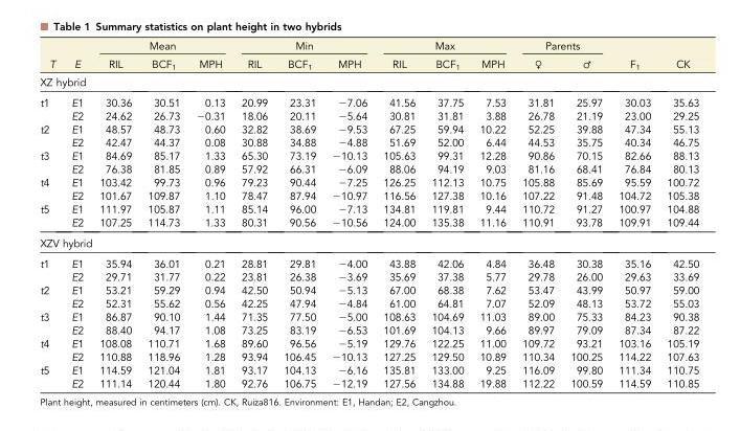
<table><thead><tr><td rowspan="2">T</td><td rowspan="2">E</td><td colspan="3">Mean</td><td colspan="3">Min</td><td colspan="3">Max</td><td colspan="2">Parents</td><td rowspan="2">F<sub>1</sub></td><td rowspan="2">CK</td></tr><tr><td>RIL</td><td>BCF<sub>1</sub></td><td>MPH</td><td>RIL</td><td>BCF<sub>1</sub></td><td>MPH</td><td>RIL</td><td>BCF<sub>1</sub></td><td>MPH</td><td>♀</td><td>♂</td></tr></thead><tbody><tr><td colspan="15">XZ hybrid</td></tr><tr><td rowspan="2">t1</td><td>E1</td><td>30.36</td><td>30.51</td><td>0.13</td><td>20.99</td><td>23.31</td><td>−7.06</td><td>41.56</td><td>37.75</td><td>7.53</td><td>31.81</td><td>25.97</td><td>30.03</td><td>35.63</td></tr><tr><td>E2</td><td>24.62</td><td>26.73</td><td>−0.31</td><td>18.06</td><td>20.11</td><td>−5.64</td><td>30.81</td><td>31.81</td><td>3.88</td><td>26.78</td><td>21.19</td><td>23.00</td><td>29.25</td></tr><tr><td rowspan="2">t2</td><td>E1</td><td>48.57</td><td>48.73</td><td>0.60</td><td>32.82</td><td>38.69</td><td>−9.53</td><td>67.25</td><td>59.94</td><td>10.22</td><td>52.25</td><td>39.88</td><td>47.34</td><td>55.13</td></tr><tr><td>E2</td><td>42.47</td><td>44.37</td><td>0.08</td><td>30.88</td><td>34.88</td><td>−4.88</td><td>51.69</td><td>52.00</td><td>6.44</td><td>44.53</td><td>35.75</td><td>40.34</td><td>46.75</td></tr><tr><td rowspan="2">t3</td><td>E1</td><td>84.69</td><td>85.17</td><td>1.33</td><td>65.30</td><td>73.19</td><td>−10.13</td><td>105.63</td><td>99.31</td><td>12.28</td><td>90.86</td><td>70.15</td><td>82.66</td><td>88.13</td></tr><tr><td>E2</td><td>76.38</td><td>81.85</td><td>0.89</td><td>57.92</td><td>66.31</td><td>−6.09</td><td>88.06</td><td>94.19</td><td>9.03</td><td>81.16</td><td>68.41</td><td>76.84</td><td>80.13</td></tr><tr><td rowspan="2">t4</td><td>E1</td><td>103.42</td><td>99.73</td><td>0.96</td><td>79.23</td><td>90.44</td><td>−7.25</td><td>126.25</td><td>112.13</td><td>10.75</td><td>105.88</td><td>85.69</td><td>95.59</td><td>100.72</td></tr><tr><td>E2</td><td>101.67</td><td>109.87</td><td>1.10</td><td>78.47</td><td>87.94</td><td>−10.97</td><td>116.56</td><td>127.38</td><td>10.16</td><td>107.22</td><td>91.48</td><td>104.72</td><td>105.38</td></tr><tr><td rowspan="2">t5</td><td>E1</td><td>111.97</td><td>105.87</td><td>1.11</td><td>85.14</td><td>96.00</td><td>−7.13</td><td>134.81</td><td>119.81</td><td>9.44</td><td>110.72</td><td>91.27</td><td>100.97</td><td>104.88</td></tr><tr><td>E2</td><td>107.25</td><td>114.73</td><td>1.33</td><td>80.31</td><td>90.56</td><td>−10.56</td><td>124.00</td><td>135.38</td><td>11.16</td><td>110.91</td><td>93.78</td><td>109.91</td><td>109.44</td></tr><tr><td colspan="15">XZV hybrid</td></tr><tr><td rowspan="2">t1</td><td>E1</td><td>35.94</td><td>36.01</td><td>0.21</td><td>28.81</td><td>29.81</td><td>−4.00</td><td>43.88</td><td>42.06</td><td>4.84</td><td>36.48</td><td>30.38</td><td>35.16</td><td>42.50</td></tr><tr><td>E2</td><td>29.71</td><td>31.77</td><td>0.22</td><td>23.81</td><td>26.38</td><td>−3.69</td><td>35.69</td><td>37.38</td><td>5.77</td><td>29.78</td><td>26.00</td><td>29.63</td><td>33.69</td></tr><tr><td rowspan="2">t2</td><td>E1</td><td>53.21</td><td>59.29</td><td>0.94</td><td>42.50</td><td>50.94</td><td>−5.13</td><td>67.00</td><td>68.38</td><td>7.62</td><td>53.47</td><td>43.99</td><td>50.97</td><td>59.00</td></tr><tr><td>E2</td><td>52.31</td><td>55.62</td><td>0.56</td><td>42.25</td><td>47.94</td><td>−4.84</td><td>61.00</td><td>64.81</td><td>7.07</td><td>52.09</td><td>48.13</td><td>53.72</td><td>55.03</td></tr><tr><td rowspan="2">t3</td><td>E1</td><td>86.87</td><td>90.10</td><td>1.44</td><td>71.35</td><td>77.50</td><td>−5.00</td><td>108.63</td><td>104.69</td><td>11.03</td><td>89.00</td><td>75.33</td><td>84.23</td><td>90.38</td></tr><tr><td>E2</td><td>88.40</td><td>94.17</td><td>1.08</td><td>73.25</td><td>83.19</td><td>−6.53</td><td>101.69</td><td>104.13</td><td>9.66</td><td>89.97</td><td>79.09</td><td>87.34</td><td>87.22</td></tr><tr><td rowspan="2">t4</td><td>E1</td><td>108.08</td><td>110.71</td><td>1.68</td><td>89.60</td><td>96.56</td><td>−5.19</td><td>129.76</td><td>122.25</td><td>11.00</td><td>109.72</td><td>93.21</td><td>103.16</td><td>105.19</td></tr><tr><td>E2</td><td>110.88</td><td>118.96</td><td>1.28</td><td>93.94</td><td>106.45</td><td>−10.13</td><td>127.25</td><td>129.50</td><td>10.89</td><td>110.34</td><td>100.25</td><td>114.22</td><td>107.63</td></tr><tr><td rowspan="2">t5</td><td>E1</td><td>114.59</td><td>121.04</td><td>1.81</td><td>93.17</td><td>104.13</td><td>−6.16</td><td>135.81</td><td>133.00</td><td>9.25</td><td>116.09</td><td>99.80</td><td>111.34</td><td>110.75</td></tr><tr><td>E2</td><td>111.14</td><td>120.44</td><td>1.80</td><td>92.76</td><td>106.75</td><td>−12.19</td><td>127.56</td><td>134.88</td><td>19.88</td><td>112.22</td><td>100.59</td><td>114.59</td><td>110.85</td></tr></tbody></table>